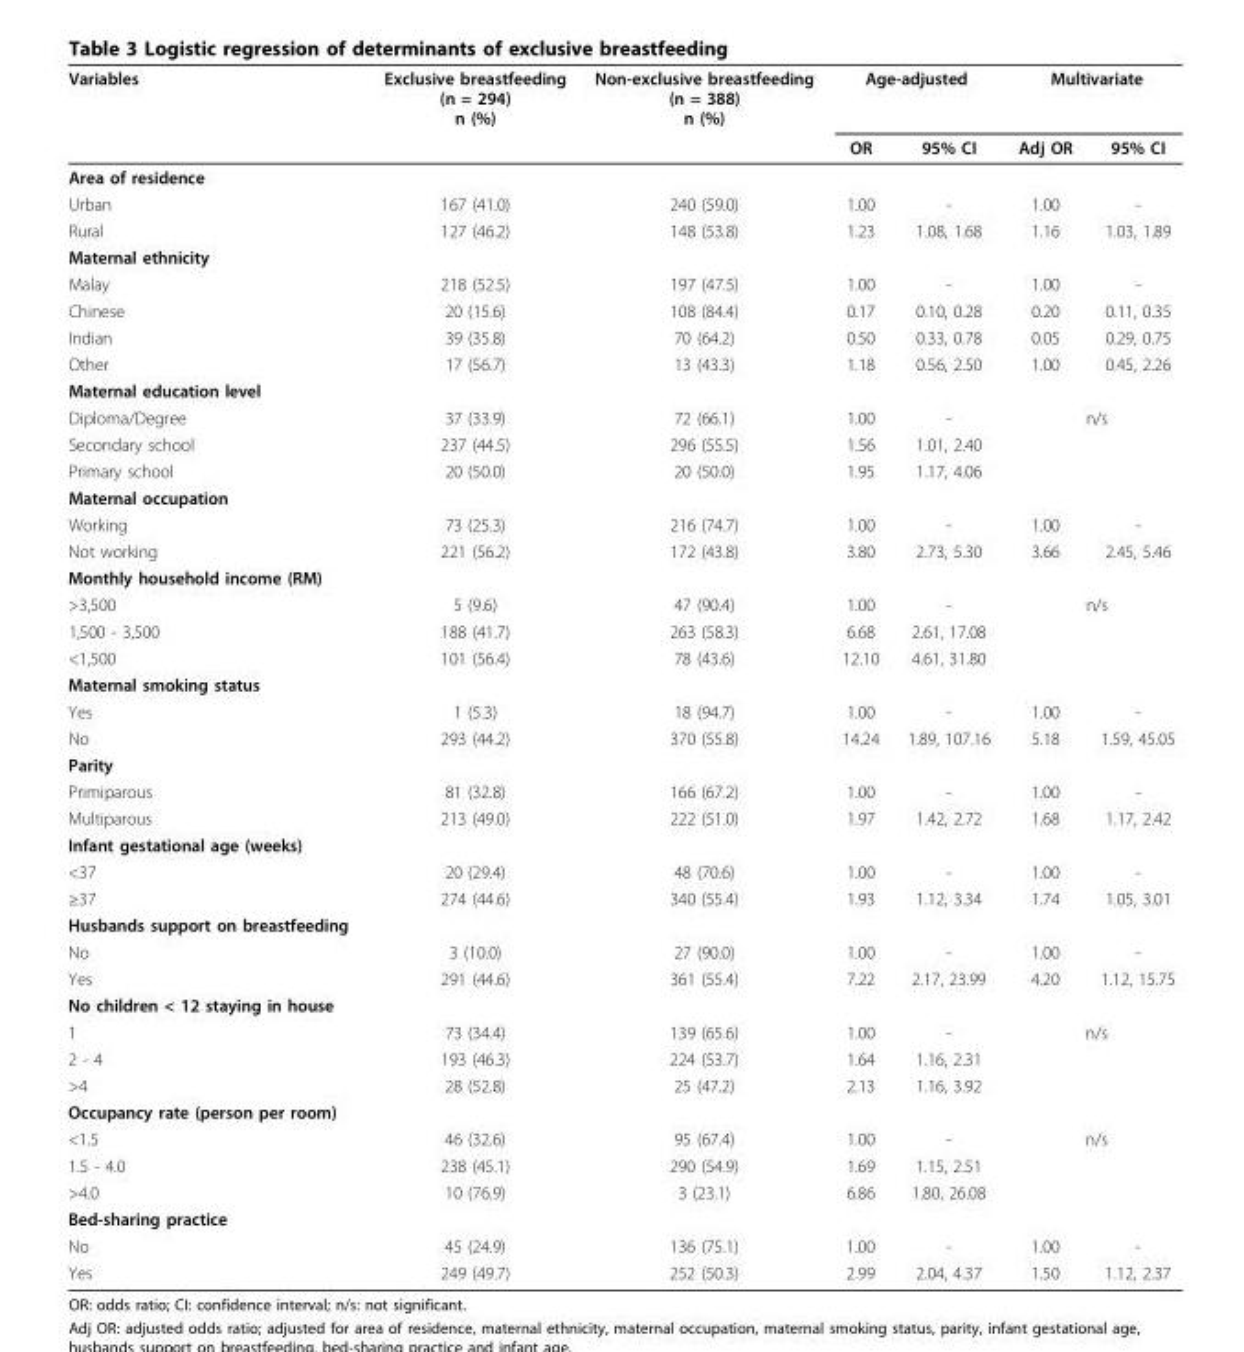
<table><thead><tr><td rowspan="2">Variables</td><td rowspan="2">Exclusive breastfeeding (n = 294) n (%)</td><td rowspan="2">Non-exclusive breastfeeding (n = 388) n (%)</td><td colspan="2">Age-adjusted</td><td colspan="2">Multivariate</td></tr><tr><td>OR</td><td>95% CI</td><td>Adj OR</td><td>95% CI</td></tr></thead><tbody><tr><td colspan="7">Area of residence</td></tr><tr><td>Urban</td><td>167 (41.0)</td><td>240 (59.0)</td><td>1.00</td><td>-</td><td>1.00</td><td>-</td></tr><tr><td>Rural</td><td>127 (46.2)</td><td>148 (53.8)</td><td>1.23</td><td>1.08, 1.68</td><td>1.16</td><td>1.03, 1.89</td></tr><tr><td colspan="7">Maternal ethnicity</td></tr><tr><td>Malay</td><td>218 (52.5)</td><td>197 (47.5)</td><td>1.00</td><td>-</td><td>1.00</td><td>-</td></tr><tr><td>Chinese</td><td>20 (15.6)</td><td>108 (84.4)</td><td>0.17</td><td>0.10, 0.28</td><td>0.20</td><td>0.11, 0.35</td></tr><tr><td>Indian</td><td>39 (35.8)</td><td>70 (64.2)</td><td>0.50</td><td>0.33, 0.78</td><td>0.05</td><td>0.29, 0.75</td></tr><tr><td>Other</td><td>17 (56.7)</td><td>13 (43.3)</td><td>1.18</td><td>0.56, 2.50</td><td>1.00</td><td>0.45, 2.26</td></tr><tr><td colspan="7">Maternal education level</td></tr><tr><td>Diploma/Degree</td><td>37 (33.9)</td><td>72 (66.1)</td><td>1.00</td><td>-</td><td colspan="2">n/s</td></tr><tr><td>Secondary school</td><td>237 (44.5)</td><td>296 (55.5)</td><td>1.56</td><td>1.01, 2.40</td><td></td><td></td></tr><tr><td>Primary school</td><td>20 (50.0)</td><td>20 (50.0)</td><td>1.95</td><td>1.17, 4.06</td><td></td><td></td></tr><tr><td colspan="7">Maternal occupation</td></tr><tr><td>Working</td><td>73 (25.3)</td><td>216 (74.7)</td><td>1.00</td><td>-</td><td>1.00</td><td>-</td></tr><tr><td>Not working</td><td>221 (56.2)</td><td>172 (43.8)</td><td>3.80</td><td>2.73, 5.30</td><td>3.66</td><td>2.45, 5.46</td></tr><tr><td colspan="7">Monthly household income (RM)</td></tr><tr><td>&gt;3,500</td><td>5 (9.6)</td><td>47 (90.4)</td><td>1.00</td><td>-</td><td colspan="2">n/s</td></tr><tr><td>1,500 - 3,500</td><td>188 (41.7)</td><td>263 (58.3)</td><td>6.68</td><td>2.61, 17.08</td><td></td><td></td></tr><tr><td>&lt;1,500</td><td>101 (56.4)</td><td>78 (43.6)</td><td>12.10</td><td>4.61, 31.80</td><td></td><td></td></tr><tr><td colspan="7">Maternal smoking status</td></tr><tr><td>Yes</td><td>1 (5.3)</td><td>18 (94.7)</td><td>1.00</td><td>-</td><td>1.00</td><td>-</td></tr><tr><td>No</td><td>293 (44.2)</td><td>370 (55.8)</td><td>14.24</td><td>1.89, 107.16</td><td>5.18</td><td>1.59, 45.05</td></tr><tr><td colspan="7">Parity</td></tr><tr><td>Primiparous</td><td>81 (32.8)</td><td>166 (67.2)</td><td>1.00</td><td>-</td><td>1.00</td><td>-</td></tr><tr><td>Multiparous</td><td>213 (49.0)</td><td>222 (51.0)</td><td>1.97</td><td>1.42, 2.72</td><td>1.68</td><td>1.17, 2.42</td></tr><tr><td colspan="7">Infant gestational age (weeks)</td></tr><tr><td>&lt;37</td><td>20 (29.4)</td><td>48 (70.6)</td><td>1.00</td><td>-</td><td>1.00</td><td>-</td></tr><tr><td>≥37</td><td>274 (44.6)</td><td>340 (55.4)</td><td>1.93</td><td>1.12, 3.34</td><td>1.74</td><td>1.05, 3.01</td></tr><tr><td colspan="7">Husbands support on breastfeeding</td></tr><tr><td>No</td><td>3 (10.0)</td><td>27 (90.0)</td><td>1.00</td><td>-</td><td>1.00</td><td>-</td></tr><tr><td>Yes</td><td>291 (44.6)</td><td>361 (55.4)</td><td>7.22</td><td>2.17, 23.99</td><td>4.20</td><td>1.12, 15.75</td></tr><tr><td colspan="7">No children &lt; 12 staying in house</td></tr><tr><td>1</td><td>73 (34.4)</td><td>139 (65.6)</td><td>1.00</td><td>-</td><td colspan="2">n/s</td></tr><tr><td>2 - 4</td><td>193 (46.3)</td><td>224 (53.7)</td><td>1.64</td><td>1.16, 2.31</td><td></td><td></td></tr><tr><td>&gt;4</td><td>28 (52.8)</td><td>25 (47.2)</td><td>2.13</td><td>1.16, 3.92</td><td></td><td></td></tr><tr><td colspan="7">Occupancy rate (person per room)</td></tr><tr><td>&lt;1.5</td><td>46 (32.6)</td><td>95 (67.4)</td><td>1.00</td><td>-</td><td colspan="2">n/s</td></tr><tr><td>1.5 - 4.0</td><td>238 (45.1)</td><td>290 (54.9)</td><td>1.69</td><td>1.15, 2.51</td><td></td><td></td></tr><tr><td>&gt;4.0</td><td>10 (76.9)</td><td>3 (23.1)</td><td>6.86</td><td>1.80, 26.08</td><td></td><td></td></tr><tr><td colspan="7">Bed-sharing practice</td></tr><tr><td>No</td><td>45 (24.9)</td><td>136 (75.1)</td><td>1.00</td><td>-</td><td>1.00</td><td>-</td></tr><tr><td>Yes</td><td>249 (49.7)</td><td>252 (50.3)</td><td>2.99</td><td>2.04, 4.37</td><td>1.50</td><td>1.12, 2.37</td></tr></tbody></table>